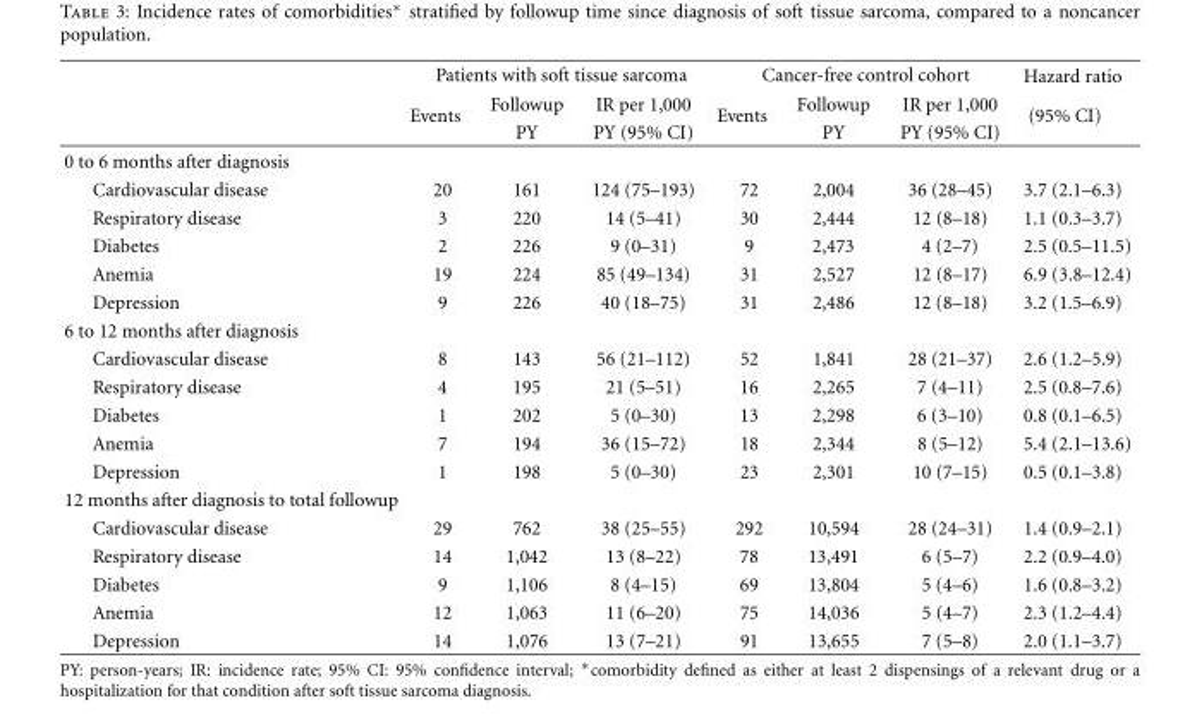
<table><thead><tr><td rowspan="3"></td><td colspan="3">Patients with soft tissue sarcoma</td><td colspan="3">Cancer-free control cohort</td><td rowspan="3">Hazard ratio (95% CI)</td></tr><tr><td rowspan="2">Events</td><td rowspan="2">Followup PY</td><td rowspan="2">IR per 1,000 PY (95% CI)</td><td rowspan="2">Events</td><td rowspan="2">Followup PY</td><td rowspan="2">IR per 1,000 PY (95% CI)</td></tr><tr></tr></thead><tbody><tr><td colspan="8">0 to 6 months after diagnosis</td></tr><tr><td>Cardiovascular disease</td><td>20</td><td>161</td><td>124 (75–193)</td><td>72</td><td>2,004</td><td>36 (28–45)</td><td>3.7 (2.1–6.3)</td></tr><tr><td>Respiratory disease</td><td>3</td><td>220</td><td>14 (5–41)</td><td>30</td><td>2,444</td><td>12 (8–18)</td><td>1.1 (0.3–3.7)</td></tr><tr><td>Diabetes</td><td>2</td><td>226</td><td>9 (0–31)</td><td>9</td><td>2,473</td><td>4 (2–7)</td><td>2.5 (0.5–11.5)</td></tr><tr><td>Anemia</td><td>19</td><td>224</td><td>85 (49–134)</td><td>31</td><td>2,527</td><td>12 (8–17)</td><td>6.9 (3.8–12.4)</td></tr><tr><td>Depression</td><td>9</td><td>226</td><td>40 (18–75)</td><td>31</td><td>2,486</td><td>12 (8–18)</td><td>3.2 (1.5–6.9)</td></tr><tr><td colspan="8">6 to 12 months after diagnosis</td></tr><tr><td>Cardiovascular disease</td><td>8</td><td>143</td><td>56 (21–112)</td><td>52</td><td>1,841</td><td>28 (21–37)</td><td>2.6 (1.2–5.9)</td></tr><tr><td>Respiratory disease</td><td>4</td><td>195</td><td>21 (5–51)</td><td>16</td><td>2,265</td><td>7 (4–11)</td><td>2.5 (0.8–7.6)</td></tr><tr><td>Diabetes</td><td>1</td><td>202</td><td>5 (0–30)</td><td>13</td><td>2,298</td><td>6 (3–10)</td><td>0.8 (0.1–6.5)</td></tr><tr><td>Anemia</td><td>7</td><td>194</td><td>36 (15–72)</td><td>18</td><td>2,344</td><td>8 (5–12)</td><td>5.4 (2.1–13.6)</td></tr><tr><td>Depression</td><td>1</td><td>198</td><td>5 (0–30)</td><td>23</td><td>2,301</td><td>10 (7–15)</td><td>0.5 (0.1–3.8)</td></tr><tr><td colspan="8">12 months after diagnosis to total followup</td></tr><tr><td>Cardiovascular disease</td><td>29</td><td>762</td><td>38 (25–55)</td><td>292</td><td>10,594</td><td>28 (24–31)</td><td>1.4 (0.9–2.1)</td></tr><tr><td>Respiratory disease</td><td>14</td><td>1,042</td><td>13 (8–22)</td><td>78</td><td>13,491</td><td>6 (5–7)</td><td>2.2 (0.9–4.0)</td></tr><tr><td>Diabetes</td><td>9</td><td>1,106</td><td>8 (4–15)</td><td>69</td><td>13,804</td><td>5 (4–6)</td><td>1.6 (0.8–3.2)</td></tr><tr><td>Anemia</td><td>12</td><td>1,063</td><td>11 (6–20)</td><td>75</td><td>14,036</td><td>5 (4–7)</td><td>2.3 (1.2–4.4)</td></tr><tr><td>Depression</td><td>14</td><td>1,076</td><td>13 (7–21)</td><td>91</td><td>13,655</td><td>7 (5–8)</td><td>2.0 (1.1–3.7)</td></tr></tbody></table>